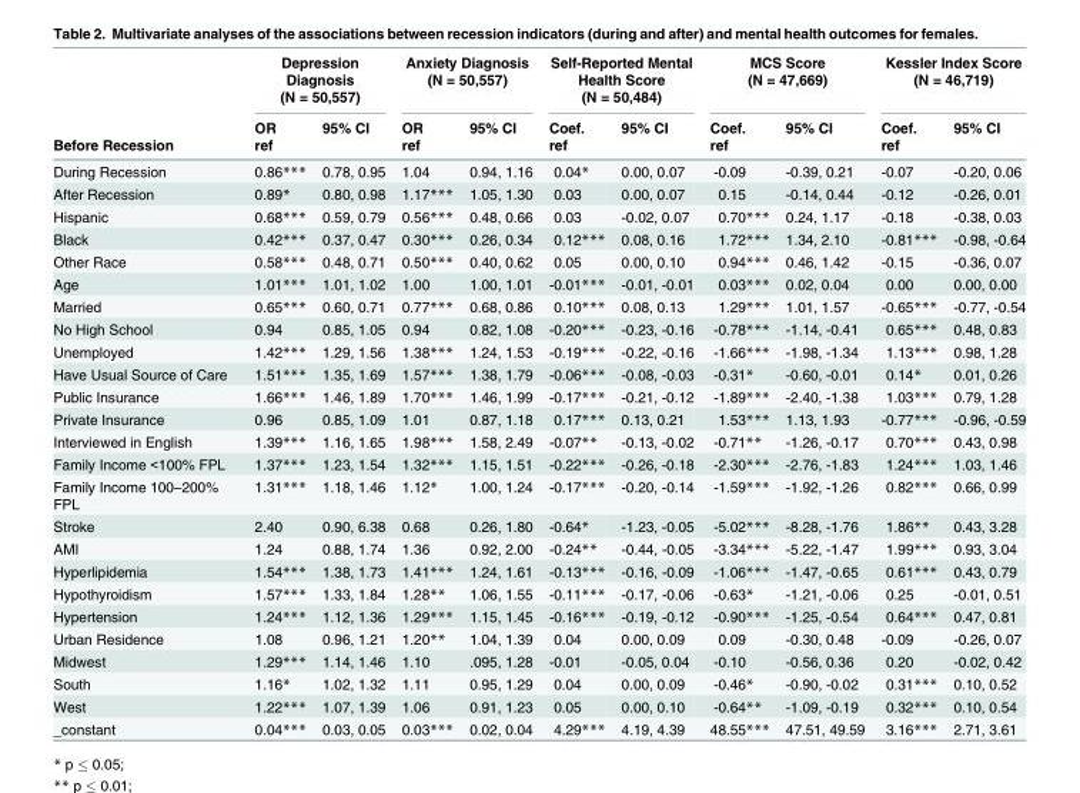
<table><thead><tr><td rowspan="3">Before Recession</td><td colspan="2">Depression Diagnosis (N = 50,557)</td><td colspan="2">Anxiety Diagnosis (N = 50,557)</td><td colspan="2">Self-Reported Mental Health Score (N = 50,484)</td><td colspan="2">MCS Score (N = 47,669)</td><td colspan="2">Kessler Index Score (N = 46,719)</td></tr><tr><td rowspan="2">OR ref</td><td rowspan="2">95% CI</td><td rowspan="2">OR ref</td><td rowspan="2">95% CI</td><td rowspan="2">Coef. ref</td><td rowspan="2">95% CI</td><td rowspan="2">Coef. ref</td><td rowspan="2">95% CI</td><td rowspan="2">Coef. ref</td><td rowspan="2">95% CI</td></tr><tr></tr></thead><tbody><tr><td>During Recession</td><td>0.86***</td><td>0.78, 0.95</td><td>1.04</td><td>0.94, 1.16</td><td>0.04*</td><td>0.00, 0.07</td><td>-0.09</td><td>-0.39, 0.21</td><td>-0.07</td><td>-0.20, 0.06</td></tr><tr><td>After Recession</td><td>0.89*</td><td>0.80, 0.98</td><td>1.17***</td><td>1.05, 1.30</td><td>0.03</td><td>0.00, 0.07</td><td>0.15</td><td>-0.14, 0.44</td><td>-0.12</td><td>-0.26, 0.01</td></tr><tr><td>Hispanic</td><td>0.68***</td><td>0.59, 0.79</td><td>0.56***</td><td>0.48, 0.66</td><td>0.03</td><td>-0.02, 0.07</td><td>0.70***</td><td>0.24, 1.17</td><td>-0.18</td><td>-0.38, 0.03</td></tr><tr><td>Black</td><td>0.42***</td><td>0.37, 0.47</td><td>0.30***</td><td>0.26, 0.34</td><td>0.12***</td><td>0.08, 0.16</td><td>1.72***</td><td>1.34, 2.10</td><td>-0.81***</td><td>-0.98, -0.64</td></tr><tr><td>Other Race</td><td>0.58***</td><td>0.48, 0.71</td><td>0.50***</td><td>0.40, 0.62</td><td>0.05</td><td>0.00, 0.10</td><td>0.94***</td><td>0.46, 1.42</td><td>-0.15</td><td>-0.36, 0.07</td></tr><tr><td>Age</td><td>1.01***</td><td>1.01, 1.02</td><td>1.00</td><td>1.00, 1.01</td><td>-0.01***</td><td>-0.01, -0.01</td><td>0.03***</td><td>0.02, 0.04</td><td>0.00</td><td>0.00, 0.00</td></tr><tr><td>Married</td><td>0.65***</td><td>0.60, 0.71</td><td>0.77***</td><td>0.68, 0.86</td><td>0.10***</td><td>0.08, 0.13</td><td>1.29***</td><td>1.01, 1.57</td><td>-0.65***</td><td>-0.77, -0.54</td></tr><tr><td>No High School</td><td>0.94</td><td>0.85, 1.05</td><td>0.94</td><td>0.82, 1.08</td><td>-0.20***</td><td>-0.23, -0.16</td><td>-0.78***</td><td>-1.14, -0.41</td><td>0.65***</td><td>0.48, 0.83</td></tr><tr><td>Unemployed</td><td>1.42***</td><td>1.29, 1.56</td><td>1.38***</td><td>1.24, 1.53</td><td>-0.19***</td><td>-0.22, -0.16</td><td>-1.66***</td><td>-1.98, -1.34</td><td>1.13***</td><td>0.98, 1.28</td></tr><tr><td>Have Usual Source of Care</td><td>1.51***</td><td>1.35, 1.69</td><td>1.57***</td><td>1.38, 1.79</td><td>-0.06***</td><td>-0.08, -0.03</td><td>-0.31*</td><td>-0.60, -0.01</td><td>0.14*</td><td>0.01, 0.26</td></tr><tr><td>Public Insurance</td><td>1.66***</td><td>1.46, 1.89</td><td>1.70***</td><td>1.46, 1.99</td><td>-0.17***</td><td>-0.21, -0.12</td><td>-1.89***</td><td>-2.40, -1.38</td><td>1.03***</td><td>0.79, 1.28</td></tr><tr><td>Private Insurance</td><td>0.96</td><td>0.85, 1.09</td><td>1.01</td><td>0.87, 1.18</td><td>0.17***</td><td>0.13, 0.21</td><td>1.53***</td><td>1.13, 1.93</td><td>-0.77***</td><td>-0.96, -0.59</td></tr><tr><td>Interviewed in English</td><td>1.39***</td><td>1.16, 1.65</td><td>1.98***</td><td>1.58, 2.49</td><td>-0.07**</td><td>-0.13, -0.02</td><td>-0.71**</td><td>-1.26, -0.17</td><td>0.70***</td><td>0.43, 0.98</td></tr><tr><td>Family Income &lt;100% FPL</td><td>1.37***</td><td>1.23, 1.54</td><td>1.32***</td><td>1.15, 1.51</td><td>-0.22***</td><td>-0.26, -0.18</td><td>-2.30***</td><td>-2.76, -1.83</td><td>1.24***</td><td>1.03, 1.46</td></tr><tr><td>Family Income 100–200% FPL</td><td>1.31***</td><td>1.18, 1.46</td><td>1.12*</td><td>1.00, 1.24</td><td>-0.17***</td><td>-0.20, -0.14</td><td>-1.59***</td><td>-1.92, -1.26</td><td>0.82***</td><td>0.66, 0.99</td></tr><tr><td>Stroke</td><td>2.40</td><td>0.90, 6.38</td><td>0.68</td><td>0.26, 1.80</td><td>-0.64*</td><td>-1.23, -0.05</td><td>-5.02***</td><td>-8.28, -1.76</td><td>1.86**</td><td>0.43, 3.28</td></tr><tr><td>AMI</td><td>1.24</td><td>0.88, 1.74</td><td>1.36</td><td>0.92, 2.00</td><td>-0.24**</td><td>-0.44, -0.05</td><td>-3.34***</td><td>-5.22, -1.47</td><td>1.99***</td><td>0.93, 3.04</td></tr><tr><td>Hyperlipidemia</td><td>1.54***</td><td>1.38, 1.73</td><td>1.41***</td><td>1.24, 1.61</td><td>-0.13***</td><td>-0.16, -0.09</td><td>-1.06***</td><td>-1.47, -0.65</td><td>0.61***</td><td>0.43, 0.79</td></tr><tr><td>Hypothyroidism</td><td>1.57***</td><td>1.33, 1.84</td><td>1.28**</td><td>1.06, 1.55</td><td>-0.11***</td><td>-0.17, -0.06</td><td>-0.63*</td><td>-1.21, -0.06</td><td>0.25</td><td>-0.01, 0.51</td></tr><tr><td>Hypertension</td><td>1.24***</td><td>1.12, 1.36</td><td>1.29***</td><td>1.15, 1.45</td><td>-0.16***</td><td>-0.19, -0.12</td><td>-0.90***</td><td>-1.25, -0.54</td><td>0.64***</td><td>0.47, 0.81</td></tr><tr><td>Urban Residence</td><td>1.08</td><td>0.96, 1.21</td><td>1.20**</td><td>1.04, 1.39</td><td>0.04</td><td>0.00, 0.09</td><td>0.09</td><td>-0.30, 0.48</td><td>-0.09</td><td>-0.26, 0.07</td></tr><tr><td>Midwest</td><td>1.29***</td><td>1.14, 1.46</td><td>1.10</td><td>.095, 1.28</td><td>-0.01</td><td>-0.05, 0.04</td><td>-0.10</td><td>-0.56, 0.36</td><td>0.20</td><td>-0.02, 0.42</td></tr><tr><td>South</td><td>1.16*</td><td>1.02, 1.32</td><td>1.11</td><td>0.95, 1.29</td><td>0.04</td><td>0.00, 0.09</td><td>-0.46*</td><td>-0.90, -0.02</td><td>0.31***</td><td>0.10, 0.52</td></tr><tr><td>West</td><td>1.22***</td><td>1.07, 1.39</td><td>1.06</td><td>0.91, 1.23</td><td>0.05</td><td>0.00, 0.10</td><td>-0.64**</td><td>-1.09, -0.19</td><td>0.32***</td><td>0.10, 0.54</td></tr><tr><td>_constant</td><td>0.04***</td><td>0.03, 0.05</td><td>0.03***</td><td>0.02, 0.04</td><td>4.29***</td><td>4.19, 4.39</td><td>48.55***</td><td>47.51, 49.59</td><td>3.16***</td><td>2.71, 3.61</td></tr></tbody></table>